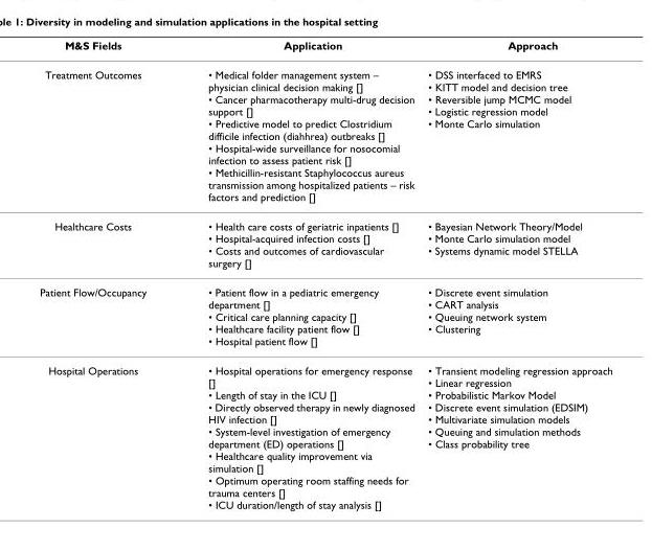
<table><thead><tr><td>M&amp;S Fields</td><td>Application</td><td>Approach</td></tr></thead><tbody><tr><td>Treatment Outcomes</td><td>• Medical folder management system – physician clinical decision making [] • Cancer pharmacotherapy multi-drug decision support [] • Predictive model to predict Clostridium difficile infection (diahhrea) outbreaks [] • Hospital-wide surveillance for nosocomial infection to assess patient risk [] • Methicillin-resistant Staphylococcus aureus transmission among hospitalized patients – risk factors and prediction []</td><td>• DSS interfaced to EMRS • KITT model and decision tree • Reversible jump MCMC model • Logistic regression model • Monte Carlo simulation</td></tr><tr><td>Healthcare Costs</td><td>• Health care costs of geriatric inpatients [] • Hospital-acquired infection costs [] • Costs and outcomes of cardiovascular surgery []</td><td>• Bayesian Network Theory/Model • Monte Carlo simulation model • Systems dynamic model STELLA</td></tr><tr><td>Patient Flow/Occupancy</td><td>• Patient flow in a pediatric emergency department [] • Critical care planning capacity [] • Healthcare facility patient flow [] • Hospital patient flow []</td><td>• Discrete event simulation • CART analysis • Queuing network system • Clustering</td></tr><tr><td>Hospital Operations</td><td>• Hospital operations for emergency response [] • Length of stay in the ICU [] • Directly observed therapy in newly diagnosed HIV infection [] • System-level investigation of emergency department (ED) operations [] • Healthcare quality improvement via simulation [] • Optimum operating room staffing needs for trauma centers [] • ICU duration/length of stay analysis []</td><td>• Transient modeling regression approach • Linear regression • Probabilistic Markov Model • Discrete event simulation (EDSIM) • Multivariate simulation models • Queuing and simulation methods • Class probability tree</td></tr></tbody></table>